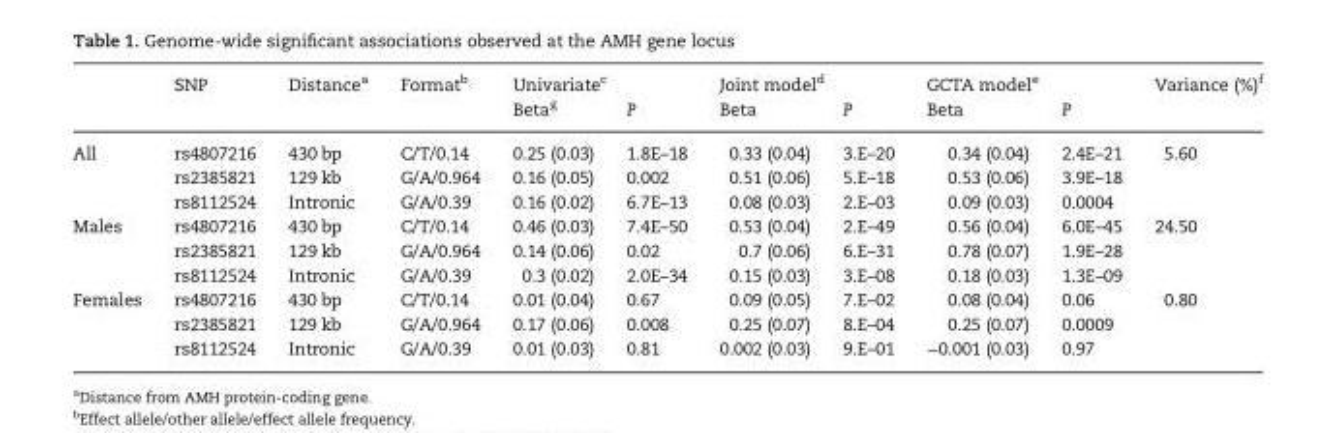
<table><thead><tr><td rowspan="2"></td><td rowspan="2">SNP</td><td rowspan="2">Distance<sup>a</sup></td><td rowspan="2">Format<sup>b</sup></td><td colspan="2">Univariate<sup>c</sup></td><td colspan="2">Joint model<sup>d</sup></td><td colspan="2">GCTA model<sup>e</sup></td><td rowspan="2">Variance (%)<sup>f</sup></td></tr><tr><td>Beta<sup>g</sup></td><td>P</td><td>Beta</td><td>P</td><td>Beta</td><td>P</td></tr></thead><tbody><tr><td rowspan="3">All</td><td>rs4807216</td><td>430 bp</td><td>C/T/0.14</td><td>0.25 (0.03)</td><td>1.8E–18</td><td>0.33 (0.04)</td><td>3.E–20</td><td>0.34 (0.04)</td><td>2.4E–21</td><td rowspan="3">5.60</td></tr><tr><td>rs2385821</td><td>129 kb</td><td>G/A/0.964</td><td>0.16 (0.05)</td><td>0.002</td><td>0.51 (0.06)</td><td>5.E–18</td><td>0.53 (0.06)</td><td>3.9E–18</td></tr><tr><td>rs8112524</td><td>Intronic</td><td>G/A/0.39</td><td>0.16 (0.02)</td><td>6.7E–13</td><td>0.08 (0.03)</td><td>2.E–03</td><td>0.09 (0.03)</td><td>0.0004</td></tr><tr><td rowspan="3">Males</td><td>rs4807216</td><td>430 bp</td><td>C/T/0.14</td><td>0.46 (0.03)</td><td>7.4E–50</td><td>0.53 (0.04)</td><td>2.E–49</td><td>0.56 (0.04)</td><td>6.0E–45</td><td rowspan="3">24.50</td></tr><tr><td>rs2385821</td><td>129 kb</td><td>G/A/0.964</td><td>0.14 (0.06)</td><td>0.02</td><td>0.7 (0.06)</td><td>6.E–31</td><td>0.78 (0.07)</td><td>1.9E–28</td></tr><tr><td>rs8112524</td><td>Intronic</td><td>G/A/0.39</td><td>0.3 (0.02)</td><td>2.0E–34</td><td>0.15 (0.03)</td><td>3.E–08</td><td>0.18 (0.03)</td><td>1.3E–09</td></tr><tr><td rowspan="3">Females</td><td>rs4807216</td><td>430 bp</td><td>C/T/0.14</td><td>0.01 (0.04)</td><td>0.67</td><td>0.09 (0.05)</td><td>7.E–02</td><td>0.08 (0.04)</td><td>0.06</td><td rowspan="3">0.80</td></tr><tr><td>rs2385821</td><td>129 kb</td><td>G/A/0.964</td><td>0.17 (0.06)</td><td>0.008</td><td>0.25 (0.07)</td><td>8.E–04</td><td>0.25 (0.07)</td><td>0.0009</td></tr><tr><td>rs8112524</td><td>Intronic</td><td>G/A/0.39</td><td>0.01 (0.03)</td><td>0.81</td><td>0.002 (0.03)</td><td>9.E–01</td><td>−0.001 (0.03)</td><td>0.97</td></tr></tbody></table>